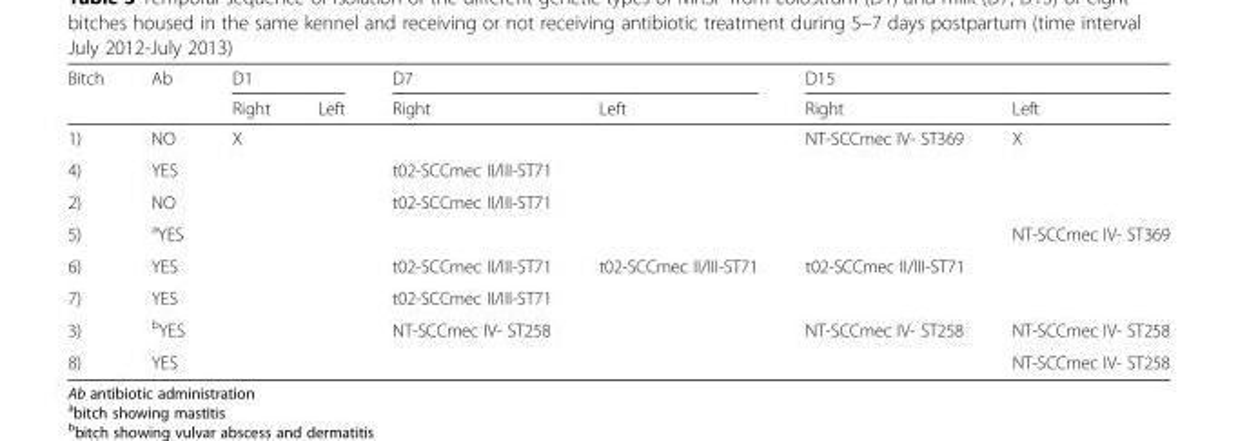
<table><thead><tr><td rowspan="2">Bitch</td><td rowspan="2">Ab</td><td colspan="2">D1</td><td colspan="2">D7</td><td colspan="2">D15</td></tr><tr><td>Right</td><td>Left</td><td>Right</td><td>Left</td><td>Right</td><td>Left</td></tr></thead><tbody><tr><td>1)</td><td>NO</td><td>X</td><td></td><td></td><td></td><td>NT-SCCmec IV- ST369</td><td>X</td></tr><tr><td>4)</td><td>YES</td><td></td><td></td><td>t02-SCCmec II/III-ST71</td><td></td><td></td><td></td></tr><tr><td>2)</td><td>NO</td><td></td><td></td><td>t02-SCCmec II/III-ST71</td><td></td><td></td><td></td></tr><tr><td>5)</td><td><sup>a</sup>YES</td><td></td><td></td><td></td><td></td><td></td><td>NT-SCCmec IV- ST369</td></tr><tr><td>6)</td><td>YES</td><td></td><td></td><td>t02-SCCmec II/III-ST71</td><td>t02-SCCmec II/III-ST71</td><td>t02-SCCmec II/III-ST71</td><td></td></tr><tr><td>7)</td><td>YES</td><td></td><td></td><td>t02-SCCmec II/III-ST71</td><td></td><td></td><td></td></tr><tr><td>3)</td><td><sup>b</sup>YES</td><td></td><td></td><td>NT-SCCmec IV- ST258</td><td></td><td>NT-SCCmec IV- ST258</td><td>NT-SCCmec IV- ST258</td></tr><tr><td>8)</td><td>YES</td><td></td><td></td><td></td><td></td><td></td><td>NT-SCCmec IV- ST258</td></tr></tbody></table>